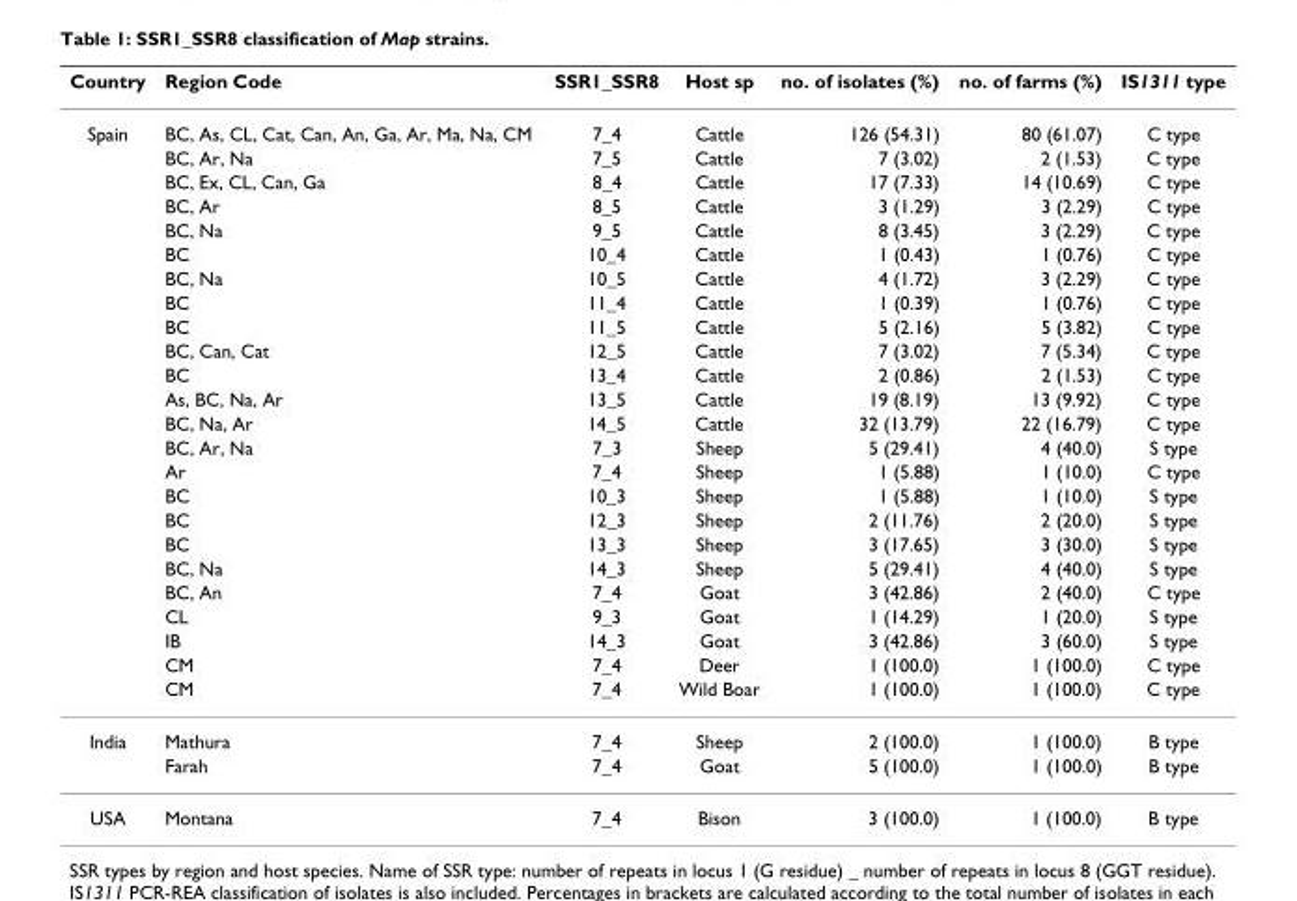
<table><thead><tr><td>Country</td><td>Region Code</td><td>SSR1_SSR8</td><td>Host sp</td><td>no. of isolates (%)</td><td>no. of farms (%)</td><td>IS1311 type</td></tr></thead><tbody><tr><td rowspan="24">Spain</td><td>BC, As, CL, Cat, Can, An, Ga, Ar, Ma, Na, CM</td><td>7_4</td><td>Cattle</td><td>126 (54.31)</td><td>80 (61.07)</td><td>C type</td></tr><tr><td>BC, Ar, Na</td><td>7_5</td><td>Cattle</td><td>7 (3.02)</td><td>2 (1.53)</td><td>C type</td></tr><tr><td>BC, Ex, CL, Can, Ga</td><td>8_4</td><td>Cattle</td><td>17 (7.33)</td><td>14 (10.69)</td><td>C type</td></tr><tr><td>BC, Ar</td><td>8_5</td><td>Cattle</td><td>3 (1.29)</td><td>3 (2.29)</td><td>C type</td></tr><tr><td>BC, Na</td><td>9_5</td><td>Cattle</td><td>8 (3.45)</td><td>3 (2.29)</td><td>C type</td></tr><tr><td>BC</td><td>10_4</td><td>Cattle</td><td>1 (0.43)</td><td>1 (0.76)</td><td>C type</td></tr><tr><td>BC, Na</td><td>10_5</td><td>Cattle</td><td>4 (1.72)</td><td>3 (2.29)</td><td>C type</td></tr><tr><td>BC</td><td>11_4</td><td>Cattle</td><td>1 (0.39)</td><td>1 (0.76)</td><td>C type</td></tr><tr><td>BC</td><td>11_5</td><td>Cattle</td><td>5 (2.16)</td><td>5 (3.82)</td><td>C type</td></tr><tr><td>BC, Can, Cat</td><td>12_5</td><td>Cattle</td><td>7 (3.02)</td><td>7 (5.34)</td><td>C type</td></tr><tr><td>BC</td><td>13_4</td><td>Cattle</td><td>2 (0.86)</td><td>2 (1.53)</td><td>C type</td></tr><tr><td>As, BC, Na, Ar</td><td>13_5</td><td>Cattle</td><td>19 (8.19)</td><td>13 (9.92)</td><td>C type</td></tr><tr><td>BC, Na, Ar</td><td>14_5</td><td>Cattle</td><td>32 (13.79)</td><td>22 (16.79)</td><td>C type</td></tr><tr><td>BC, Ar, Na</td><td>7_3</td><td>Sheep</td><td>5 (29.41)</td><td>4 (40.0)</td><td>S type</td></tr><tr><td>Ar</td><td>7_4</td><td>Sheep</td><td>1 (5.88)</td><td>1 (10.0)</td><td>C type</td></tr><tr><td>BC</td><td>10_3</td><td>Sheep</td><td>1 (5.88)</td><td>1 (10.0)</td><td>S type</td></tr><tr><td>BC</td><td>12_3</td><td>Sheep</td><td>2 (11.76)</td><td>2 (20.0)</td><td>S type</td></tr><tr><td>BC</td><td>13_3</td><td>Sheep</td><td>3 (17.65)</td><td>3 (30.0)</td><td>S type</td></tr><tr><td>BC, Na</td><td>14_3</td><td>Sheep</td><td>5 (29.41)</td><td>4 (40.0)</td><td>S type</td></tr><tr><td>BC, An</td><td>7_4</td><td>Goat</td><td>3 (42.86)</td><td>2 (40.0)</td><td>C type</td></tr><tr><td>CL</td><td>9_3</td><td>Goat</td><td>1 (14.29)</td><td>1 (20.0)</td><td>S type</td></tr><tr><td>IB</td><td>14_3</td><td>Goat</td><td>3 (42.86)</td><td>3 (60.0)</td><td>S type</td></tr><tr><td>CM</td><td>7_4</td><td>Deer</td><td>1 (100.0)</td><td>1 (100.0)</td><td>C type</td></tr><tr><td>CM</td><td>7_4</td><td>Wild Boar</td><td>1 (100.0)</td><td>1 (100.0)</td><td>C type</td></tr><tr><td rowspan="2">India</td><td>Mathura</td><td>7_4</td><td>Sheep</td><td>2 (100.0)</td><td>1 (100.0)</td><td>B type</td></tr><tr><td>Farah</td><td>7_4</td><td>Goat</td><td>5 (100.0)</td><td>1 (100.0)</td><td>B type</td></tr><tr><td>USA</td><td>Montana</td><td>7_4</td><td>Bison</td><td>3 (100.0)</td><td>1 (100.0)</td><td>B type</td></tr></tbody></table>